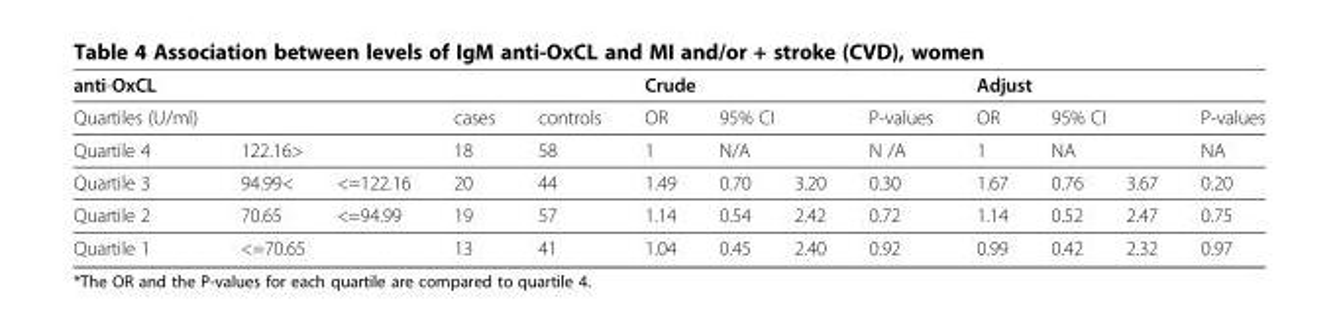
<table><thead><tr><td colspan="3">anti-OxCL</td><td rowspan="4">cases 18 20</td><td rowspan="4">controls 58 44</td><td colspan="4">Crude</td><td colspan="4">Adjust</td></tr><tr><td rowspan="3">Quartiles (U/ml) Quartile 4 Quartile 3</td><td rowspan="2" colspan="2">122.16&gt;</td><td rowspan="3">OR 1 1.49</td><td rowspan="2" colspan="2">95% CI N/A</td><td rowspan="3">P-values N /A 0.30</td><td rowspan="3">OR 1 1.67</td><td rowspan="2" colspan="2">95% CI NA</td><td rowspan="3">P-values NA 0.20</td></tr><tr></tr><tr><td>94.99&lt;</td><td>&lt;=122.16</td><td>0.70</td><td>3.20</td><td>0.76</td><td>3.67</td></tr></thead><tbody><tr><td>Quartile 2</td><td>70.65</td><td>&lt;=94.99</td><td>19</td><td>57</td><td>1.14</td><td>0.54</td><td>2.42</td><td>0.72</td><td>1.14</td><td>0.52</td><td>2.47</td><td>0.75</td></tr><tr><td>Quartile 1</td><td colspan="2">&lt;=70.65</td><td>13</td><td>41</td><td>1.04</td><td>0.45</td><td>2.40</td><td>0.92</td><td>0.99</td><td>0.42</td><td>2.32</td><td>0.97</td></tr></tbody></table>